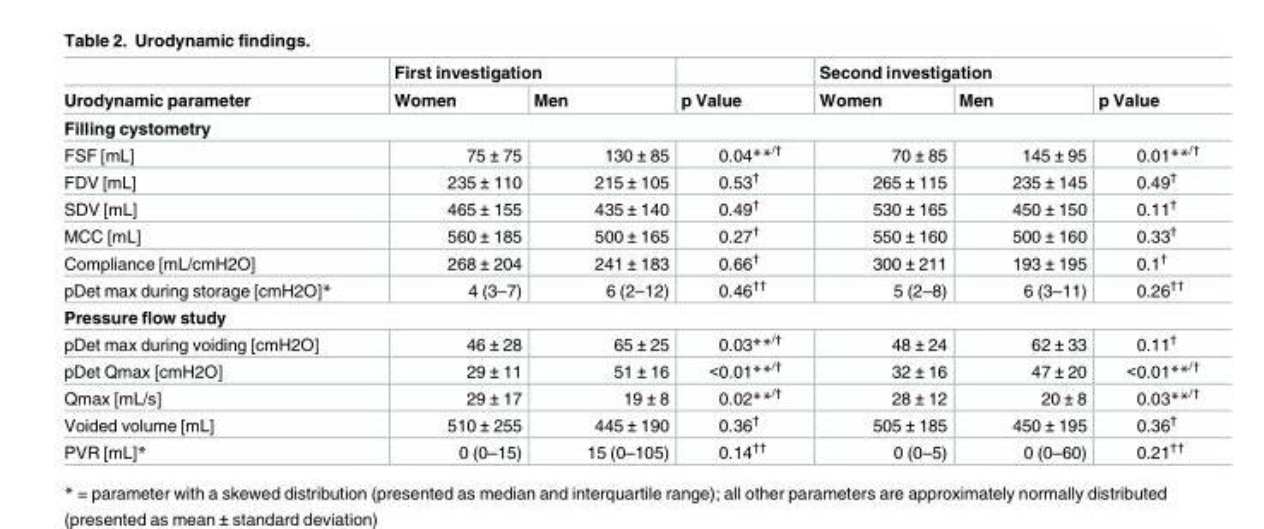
<table><thead><tr><td rowspan="2">Urodynamic parameter</td><td colspan="2">First investigation</td><td rowspan="2">p Value</td><td colspan="3">Second investigation</td></tr><tr><td>Women</td><td>Men</td><td>Women</td><td>Men</td><td>p Value</td></tr></thead><tbody><tr><td colspan="7">Filling cystometry</td></tr><tr><td>FSF [mL]</td><td>75 ± 75</td><td>130 ± 85</td><td>0.04**<sup>/†</sup></td><td>70 ± 85</td><td>145 ± 95</td><td>0.01**<sup>/†</sup></td></tr><tr><td>FDV [mL]</td><td>235 ± 110</td><td>215 ± 105</td><td>0.53<sup>†</sup></td><td>265 ± 115</td><td>235 ± 145</td><td>0.49<sup>†</sup></td></tr><tr><td>SDV [mL]</td><td>465 ± 155</td><td>435 ± 140</td><td>0.49<sup>†</sup></td><td>530 ± 165</td><td>450 ± 150</td><td>0.11<sup>†</sup></td></tr><tr><td>MCC [mL]</td><td>560 ± 185</td><td>500 ± 165</td><td>0.27<sup>†</sup></td><td>550 ± 160</td><td>500 ± 160</td><td>0.33<sup>†</sup></td></tr><tr><td>Compliance [mL/cmH2O]</td><td>268 ± 204</td><td>241 ± 183</td><td>0.66<sup>†</sup></td><td>300 ± 211</td><td>193 ± 195</td><td>0.1<sup>†</sup></td></tr><tr><td>pDet max during storage [cmH2O]*</td><td>4 (3–7)</td><td>6 (2–12)</td><td>0.46<sup>††</sup></td><td>5 (2–8)</td><td>6 (3–11)</td><td>0.26<sup>††</sup></td></tr><tr><td colspan="7">Pressure flow study</td></tr><tr><td>pDet max during voiding [cmH2O]</td><td>46 ± 28</td><td>65 ± 25</td><td>0.03**<sup>/†</sup></td><td>48 ± 24</td><td>62 ± 33</td><td>0.11<sup>†</sup></td></tr><tr><td>pDet Qmax [cmH2O]</td><td>29 ± 11</td><td>51 ± 16</td><td>&lt;0.01**<sup>/†</sup></td><td>32 ± 16</td><td>47 ± 20</td><td>&lt;0.01**<sup>/†</sup></td></tr><tr><td>Qmax [mL/s]</td><td>29 ± 17</td><td>19 ± 8</td><td>0.02**<sup>/†</sup></td><td>28 ± 12</td><td>20 ± 8</td><td>0.03**<sup>/†</sup></td></tr><tr><td>Voided volume [mL]</td><td>510 ± 255</td><td>445 ± 190</td><td>0.36<sup>†</sup></td><td>505 ± 185</td><td>450 ± 195</td><td>0.36<sup>†</sup></td></tr><tr><td>PVR [mL]*</td><td>0 (0–15)</td><td>15 (0–105)</td><td>0.14<sup>††</sup></td><td>0 (0–5)</td><td>0 (0–60)</td><td>0.21<sup>††</sup></td></tr></tbody></table>